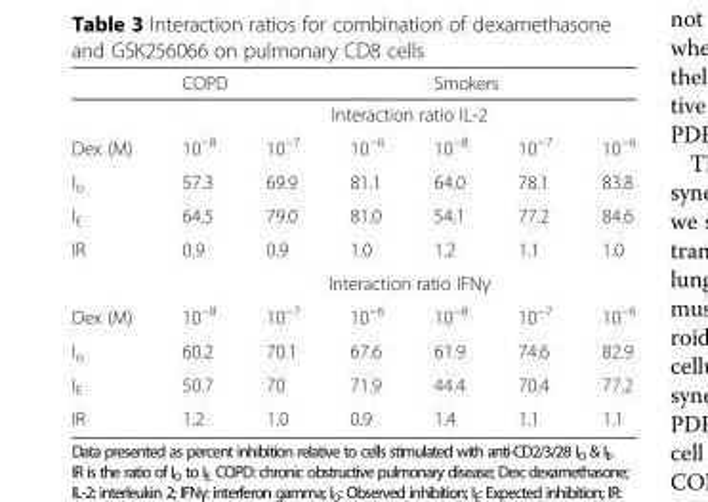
<table><thead><tr><td rowspan="3">Dex (M)</td><td colspan="3">COPD</td><td colspan="3">Smokers</td></tr><tr><td colspan="6">Interaction ratio IL-2</td></tr><tr><td>10<sup>−8</sup></td><td>10<sup>−7</sup></td><td>10<sup>−6</sup></td><td>10<sup>−8</sup></td><td>10<sup>−7</sup></td><td>10<sup>−6</sup></td></tr></thead><tbody><tr><td>I<sub>o</sub></td><td>57.3</td><td>69.9</td><td>81.1</td><td>64.0</td><td>78.1</td><td>83.8</td></tr><tr><td>I<sub>E</sub></td><td>64.5</td><td>79.0</td><td>81.0</td><td>54.1</td><td>77.2</td><td>84.6</td></tr><tr><td rowspan="2">IR</td><td>0.9</td><td>0.9</td><td>1.0</td><td>1.2</td><td>1.1</td><td>1.0</td></tr><tr><td colspan="6">Interaction ratio IFNγ</td></tr><tr><td>Dex (M)</td><td>10<sup>−8</sup></td><td>10<sup>−7</sup></td><td>10<sup>−6</sup></td><td>10<sup>−8</sup></td><td>10<sup>−7</sup></td><td>10<sup>−6</sup></td></tr><tr><td>I<sub>o</sub></td><td>60.2</td><td>70.1</td><td>67.6</td><td>61.9</td><td>74.6</td><td>82.9</td></tr><tr><td>I<sub>E</sub></td><td>50.7</td><td>70</td><td>71.9</td><td>44.4</td><td>70.4</td><td>77.2</td></tr><tr><td>IR</td><td>1.2</td><td>1.0</td><td>0.9</td><td>1.4</td><td>1.1</td><td>1.1</td></tr></tbody></table>